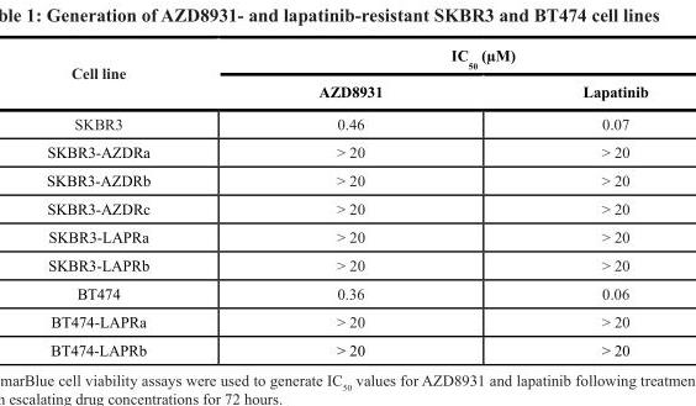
<table><thead><tr><td rowspan="2">Cell line</td><td colspan="2">IC <sub>50</sub> (µM)</td></tr><tr><td>AZD8931</td><td>Lapatinib</td></tr></thead><tbody><tr><td>SKBR3</td><td>0.46</td><td>0.07</td></tr><tr><td>SKBR3-AZDRa</td><td>&gt; 20</td><td>&gt; 20</td></tr><tr><td>SKBR3-AZDRb</td><td>&gt; 20</td><td>&gt; 20</td></tr><tr><td>SKBR3-AZDRc</td><td>&gt; 20</td><td>&gt; 20</td></tr><tr><td>SKBR3-LAPRa</td><td>&gt; 20</td><td>&gt; 20</td></tr><tr><td>SKBR3-LAPRb</td><td>&gt; 20</td><td>&gt; 20</td></tr><tr><td>BT474</td><td>0.36</td><td>0.06</td></tr><tr><td>BT474-LAPRa</td><td>&gt; 20</td><td>&gt; 20</td></tr><tr><td>BT474-LAPRb</td><td>&gt; 20</td><td>&gt; 20</td></tr></tbody></table>